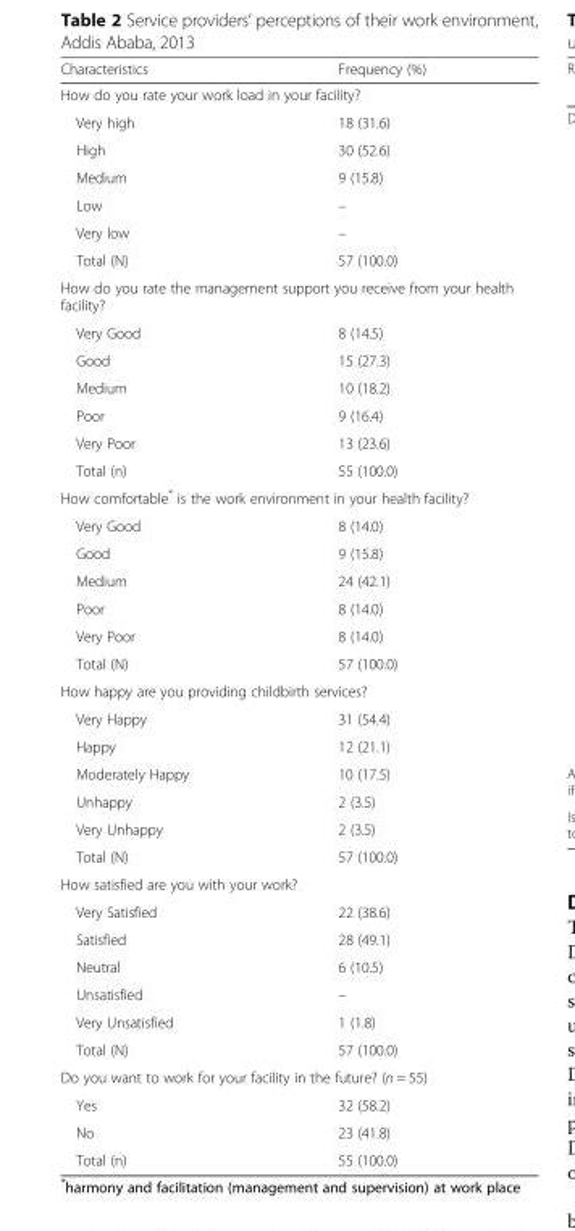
<table><thead><tr><td>Characteristics</td><td>Frequency (%)</td></tr></thead><tbody><tr><td colspan="2">How do you rate your work load in your facility?</td></tr><tr><td>Very high</td><td>18 (31.6)</td></tr><tr><td>High</td><td>30 (52.6)</td></tr><tr><td>Medium</td><td>9 (15.8)</td></tr><tr><td>Low</td><td>–</td></tr><tr><td>Very low</td><td>–</td></tr><tr><td>Total (N)</td><td>57 (100.0)</td></tr><tr><td colspan="2">How do you rate the management support you receive from your health facility?</td></tr><tr><td>Very Good</td><td>8 (14.5)</td></tr><tr><td>Good</td><td>15 (27.3)</td></tr><tr><td>Medium</td><td>10 (18.2)</td></tr><tr><td>Poor</td><td>9 (16.4)</td></tr><tr><td>Very Poor</td><td>13 (23.6)</td></tr><tr><td>Total (n)</td><td>55 (100.0)</td></tr><tr><td colspan="2">How comfortable* is the work environment in your health facility?</td></tr><tr><td>Very Good</td><td>8 (14.0)</td></tr><tr><td>Good</td><td>9 (15.8)</td></tr><tr><td>Medium</td><td>24 (42.1)</td></tr><tr><td>Poor</td><td>8 (14.0)</td></tr><tr><td>Very Poor</td><td>8 (14.0)</td></tr><tr><td>Total (N)</td><td>57 (100.0)</td></tr><tr><td colspan="2">How happy are you providing childbirth services?</td></tr><tr><td>Very Happy</td><td>31 (54.4)</td></tr><tr><td>Happy</td><td>12 (21.1)</td></tr><tr><td>Moderately Happy</td><td>10 (17.5)</td></tr><tr><td>Unhappy</td><td>2 (3.5)</td></tr><tr><td>Very Unhappy</td><td>2 (3.5)</td></tr><tr><td>Total (N)</td><td>57 (100.0)</td></tr><tr><td colspan="2">How satisfied are you with your work?</td></tr><tr><td>Very Satisfied</td><td>22 (38.6)</td></tr><tr><td>Satisfied</td><td>28 (49.1)</td></tr><tr><td>Neutral</td><td>6 (10.5)</td></tr><tr><td>Unsatisfied</td><td>–</td></tr><tr><td>Very Unsatisfied</td><td>1 (1.8)</td></tr><tr><td>Total (N)</td><td>57 (100.0)</td></tr><tr><td colspan="2">Do you want to work for your facility in the future? (n = 55)</td></tr><tr><td>Yes</td><td>32 (58.2)</td></tr><tr><td>No</td><td>23 (41.8)</td></tr><tr><td>Total (n)</td><td>55 (100.0)</td></tr></tbody></table>